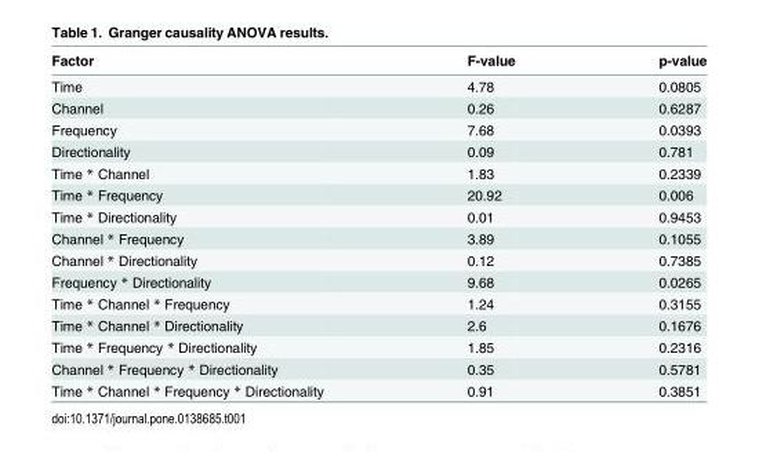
<table><thead><tr><td>Factor</td><td>F-value</td><td>p-value</td></tr></thead><tbody><tr><td>Time</td><td>4.78</td><td>0.0805</td></tr><tr><td>Channel</td><td>0.26</td><td>0.6287</td></tr><tr><td>Frequency</td><td>7.68</td><td>0.0393</td></tr><tr><td>Directionality</td><td>0.09</td><td>0.781</td></tr><tr><td>Time * Channel</td><td>1.83</td><td>0.2339</td></tr><tr><td>Time * Frequency</td><td>20.92</td><td>0.006</td></tr><tr><td>Time * Directionality</td><td>0.01</td><td>0.9453</td></tr><tr><td>Channel * Frequency</td><td>3.89</td><td>0.1055</td></tr><tr><td>Channel * Directionality</td><td>0.12</td><td>0.7385</td></tr><tr><td>Frequency * Directionality</td><td>9.68</td><td>0.0265</td></tr><tr><td>Time * Channel * Frequency</td><td>1.24</td><td>0.3155</td></tr><tr><td>Time * Channel * Directionality</td><td>2.6</td><td>0.1676</td></tr><tr><td>Time * Frequency * Directionality</td><td>1.85</td><td>0.2316</td></tr><tr><td>Channel * Frequency * Directionality</td><td>0.35</td><td>0.5781</td></tr><tr><td>Time * Channel * Frequency * Directionality</td><td>0.91</td><td>0.3851</td></tr></tbody></table>